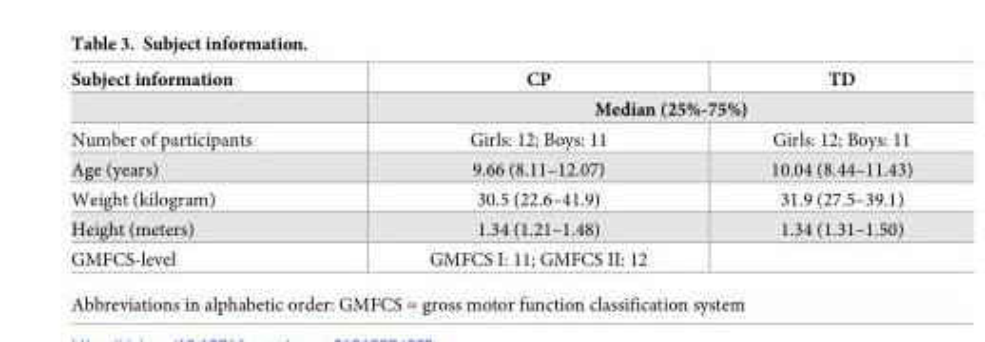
<table><thead><tr><td rowspan="2">Subject information</td><td>CP</td><td>TD</td></tr><tr><td colspan="2">Median (25%-75%)</td></tr></thead><tbody><tr><td>Number of participants</td><td>Girls: 12; Boys: 11</td><td>Girls: 12; Boys: 11</td></tr><tr><td>Age (years)</td><td>9.66 (8.11–12.07)</td><td>10.04 (8.44–11.43)</td></tr><tr><td>Weight (kilogram)</td><td>30.5 (22.6–41.9)</td><td>31.9 (27.5–39.1)</td></tr><tr><td>Height (meters)</td><td>1.34 (1.21–1.48)</td><td>1.34 (1.31–1.50)</td></tr><tr><td>GMFCS-level</td><td>GMFCS I: 11; GMFCS II: 12</td><td></td></tr></tbody></table>